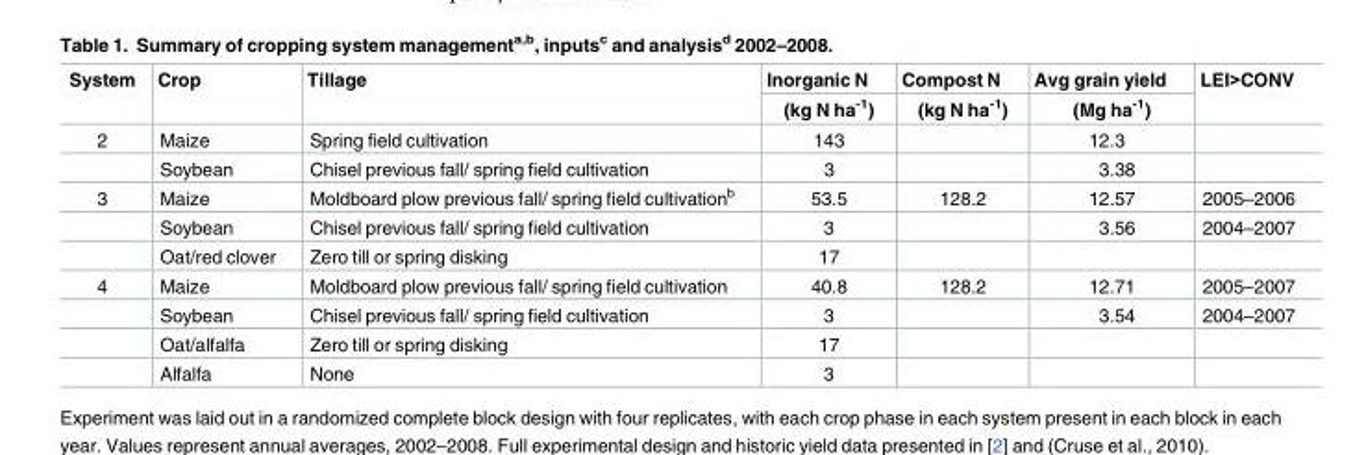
<table><thead><tr><td rowspan="2">System</td><td rowspan="2">Crop</td><td rowspan="2">Tillage</td><td rowspan="2">Inorganic N (kg N ha<sup>-1</sup>)</td><td rowspan="2">Compost N (kg N ha<sup>-1</sup>)</td><td rowspan="2">Avg grain yield (Mg ha<sup>-1</sup>)</td><td rowspan="2">LEI&gt;CONV</td></tr><tr></tr></thead><tbody><tr><td rowspan="2">2</td><td>Maize</td><td>Spring field cultivation</td><td>143</td><td></td><td>12.3</td><td></td></tr><tr><td>Soybean</td><td>Chisel previous fall/ spring field cultivation</td><td>3</td><td></td><td>3.38</td><td></td></tr><tr><td rowspan="3">3</td><td>Maize</td><td>Moldboard plow previous fall/ spring field cultivation<sup>b</sup></td><td>53.5</td><td>128.2</td><td>12.57</td><td>2005–2006</td></tr><tr><td>Soybean</td><td>Chisel previous fall/ spring field cultivation</td><td>3</td><td></td><td>3.56</td><td>2004–2007</td></tr><tr><td>Oat/red clover</td><td>Zero till or spring disking</td><td>17</td><td></td><td></td><td></td></tr><tr><td rowspan="4">4</td><td>Maize</td><td>Moldboard plow previous fall/ spring field cultivation</td><td>40.8</td><td>128.2</td><td>12.71</td><td>2005–2007</td></tr><tr><td>Soybean</td><td>Chisel previous fall/ spring field cultivation</td><td>3</td><td></td><td>3.54</td><td>2004–2007</td></tr><tr><td>Oat/alfalfa</td><td>Zero till or spring disking</td><td>17</td><td></td><td></td><td></td></tr><tr><td>Alfalfa</td><td>None</td><td>3</td><td></td><td></td><td></td></tr></tbody></table>